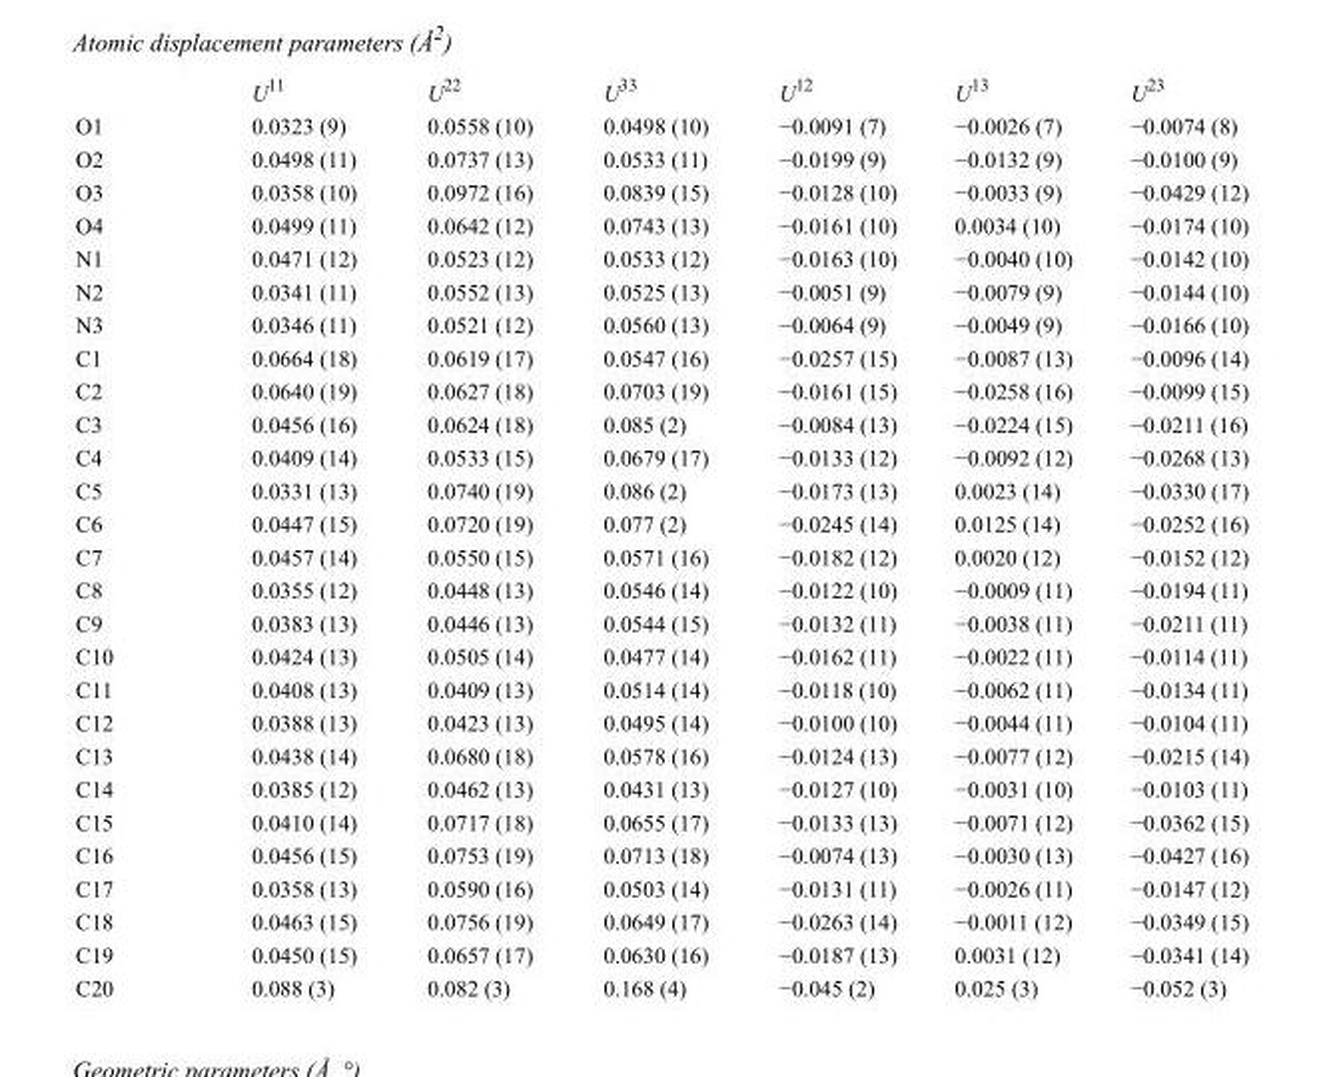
<table><thead><tr><td></td><td>U<sup>11</sup></td><td>U<sup>22</sup></td><td>U<sup>33</sup></td><td>U<sup>12</sup></td><td>U<sup>13</sup></td><td>U<sup>23</sup></td></tr></thead><tbody><tr><td>O1</td><td>0.0323 (9)</td><td>0.0558 (10)</td><td>0.0498 (10)</td><td>−0.0091 (7)</td><td>−0.0026 (7)</td><td>−0.0074 (8)</td></tr><tr><td>O2</td><td>0.0498 (11)</td><td>0.0737 (13)</td><td>0.0533 (11)</td><td>−0.0199 (9)</td><td>−0.0132 (9)</td><td>−0.0100 (9)</td></tr><tr><td>O3</td><td>0.0358 (10)</td><td>0.0972 (16)</td><td>0.0839 (15)</td><td>−0.0128 (10)</td><td>−0.0033 (9)</td><td>−0.0429 (12)</td></tr><tr><td>O4</td><td>0.0499 (11)</td><td>0.0642 (12)</td><td>0.0743 (13)</td><td>−0.0161 (10)</td><td>0.0034 (10)</td><td>−0.0174 (10)</td></tr><tr><td>N1</td><td>0.0471 (12)</td><td>0.0523 (12)</td><td>0.0533 (12)</td><td>−0.0163 (10)</td><td>−0.0040 (10)</td><td>−0.0142 (10)</td></tr><tr><td>N2</td><td>0.0341 (11)</td><td>0.0552 (13)</td><td>0.0525 (13)</td><td>−0.0051 (9)</td><td>−0.0079 (9)</td><td>−0.0144 (10)</td></tr><tr><td>N3</td><td>0.0346 (11)</td><td>0.0521 (12)</td><td>0.0560 (13)</td><td>−0.0064 (9)</td><td>−0.0049 (9)</td><td>−0.0166 (10)</td></tr><tr><td>C1</td><td>0.0664 (18)</td><td>0.0619 (17)</td><td>0.0547 (16)</td><td>−0.0257 (15)</td><td>−0.0087 (13)</td><td>−0.0096 (14)</td></tr><tr><td>C2</td><td>0.0640 (19)</td><td>0.0627 (18)</td><td>0.0703 (19)</td><td>−0.0161 (15)</td><td>−0.0258 (16)</td><td>−0.0099 (15)</td></tr><tr><td>C3</td><td>0.0456 (16)</td><td>0.0624 (18)</td><td>0.085 (2)</td><td>−0.0084 (13)</td><td>−0.0224 (15)</td><td>−0.0211 (16)</td></tr><tr><td>C4</td><td>0.0409 (14)</td><td>0.0533 (15)</td><td>0.0679 (17)</td><td>−0.0133 (12)</td><td>−0.0092 (12)</td><td>−0.0268 (13)</td></tr><tr><td>C5</td><td>0.0331 (13)</td><td>0.0740 (19)</td><td>0.086 (2)</td><td>−0.0173 (13)</td><td>0.0023 (14)</td><td>−0.0330 (17)</td></tr><tr><td>C6</td><td>0.0447 (15)</td><td>0.0720 (19)</td><td>0.077 (2)</td><td>−0.0245 (14)</td><td>0.0125 (14)</td><td>−0.0252 (16)</td></tr><tr><td>C7</td><td>0.0457 (14)</td><td>0.0550 (15)</td><td>0.0571 (16)</td><td>−0.0182 (12)</td><td>0.0020 (12)</td><td>−0.0152 (12)</td></tr><tr><td>C8</td><td>0.0355 (12)</td><td>0.0448 (13)</td><td>0.0546 (14)</td><td>−0.0122 (10)</td><td>−0.0009 (11)</td><td>−0.0194 (11)</td></tr><tr><td>C9</td><td>0.0383 (13)</td><td>0.0446 (13)</td><td>0.0544 (15)</td><td>−0.0132 (11)</td><td>−0.0038 (11)</td><td>−0.0211 (11)</td></tr><tr><td>C10</td><td>0.0424 (13)</td><td>0.0505 (14)</td><td>0.0477 (14)</td><td>−0.0162 (11)</td><td>−0.0022 (11)</td><td>−0.0114 (11)</td></tr><tr><td>C11</td><td>0.0408 (13)</td><td>0.0409 (13)</td><td>0.0514 (14)</td><td>−0.0118 (10)</td><td>−0.0062 (11)</td><td>−0.0134 (11)</td></tr><tr><td>C12</td><td>0.0388 (13)</td><td>0.0423 (13)</td><td>0.0495 (14)</td><td>−0.0100 (10)</td><td>−0.0044 (11)</td><td>−0.0104 (11)</td></tr><tr><td>C13</td><td>0.0438 (14)</td><td>0.0680 (18)</td><td>0.0578 (16)</td><td>−0.0124 (13)</td><td>−0.0077 (12)</td><td>−0.0215 (14)</td></tr><tr><td>C14</td><td>0.0385 (12)</td><td>0.0462 (13)</td><td>0.0431 (13)</td><td>−0.0127 (10)</td><td>−0.0031 (10)</td><td>−0.0103 (11)</td></tr><tr><td>C15</td><td>0.0410 (14)</td><td>0.0717 (18)</td><td>0.0655 (17)</td><td>−0.0133 (13)</td><td>−0.0071 (12)</td><td>−0.0362 (15)</td></tr><tr><td>C16</td><td>0.0456 (15)</td><td>0.0753 (19)</td><td>0.0713 (18)</td><td>−0.0074 (13)</td><td>−0.0030 (13)</td><td>−0.0427 (16)</td></tr><tr><td>C17</td><td>0.0358 (13)</td><td>0.0590 (16)</td><td>0.0503 (14)</td><td>−0.0131 (11)</td><td>−0.0026 (11)</td><td>−0.0147 (12)</td></tr><tr><td>C18</td><td>0.0463 (15)</td><td>0.0756 (19)</td><td>0.0649 (17)</td><td>−0.0263 (14)</td><td>−0.0011 (12)</td><td>−0.0349 (15)</td></tr><tr><td>C19</td><td>0.0450 (15)</td><td>0.0657 (17)</td><td>0.0630 (16)</td><td>−0.0187 (13)</td><td>0.0031 (12)</td><td>−0.0341 (14)</td></tr><tr><td>C20</td><td>0.088 (3)</td><td>0.082 (3)</td><td>0.168 (4)</td><td>−0.045 (2)</td><td>0.025 (3)</td><td>−0.052 (3)</td></tr></tbody></table>